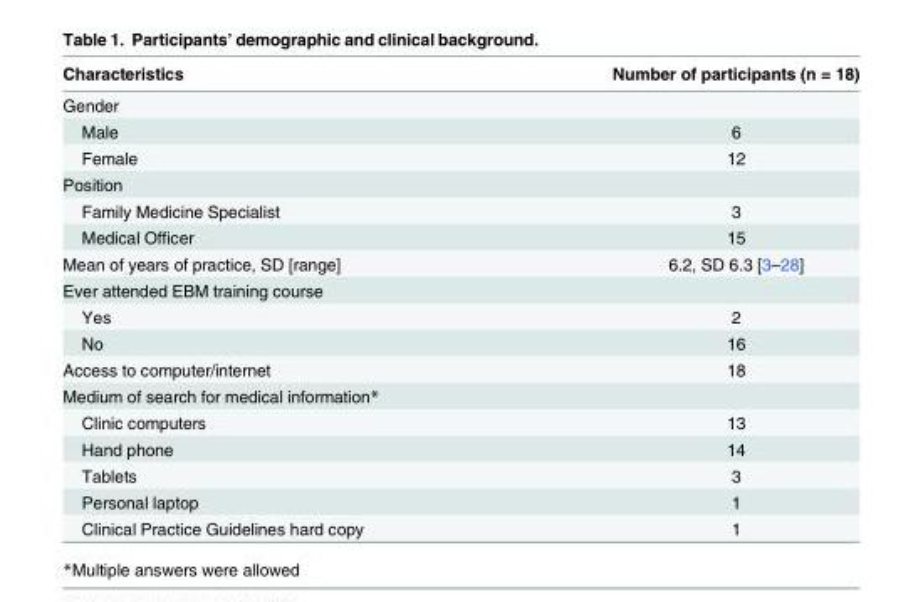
<table><thead><tr><td>Characteristics</td><td>Number of participants (n = 18)</td></tr></thead><tbody><tr><td colspan="2">Gender</td></tr><tr><td>Male</td><td>6</td></tr><tr><td>Female</td><td>12</td></tr><tr><td colspan="2">Position</td></tr><tr><td>Family Medicine Specialist</td><td>3</td></tr><tr><td>Medical Officer</td><td>15</td></tr><tr><td>Mean of years of practice, SD [range]</td><td>6.2, SD 6.3 [3–28]</td></tr><tr><td colspan="2">Ever attended EBM training course</td></tr><tr><td>Yes</td><td>2</td></tr><tr><td>No</td><td>16</td></tr><tr><td>Access to computer/internet</td><td>18</td></tr><tr><td colspan="2">Medium of search for medical information*</td></tr><tr><td>Clinic computers</td><td>13</td></tr><tr><td>Hand phone</td><td>14</td></tr><tr><td>Tablets</td><td>3</td></tr><tr><td>Personal laptop</td><td>1</td></tr><tr><td>Clinical Practice Guidelines hard copy</td><td>1</td></tr></tbody></table>